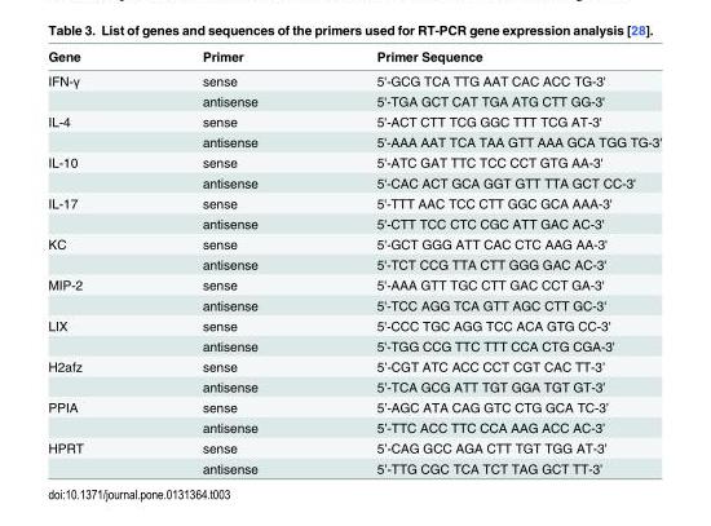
<table><thead><tr><td>Gene</td><td>Primer</td><td>Primer Sequence</td></tr></thead><tbody><tr><td rowspan="2">IFN-γ</td><td>sense</td><td>5&#x27;-GCG TCA TTG AAT CAC ACC TG-3&#x27;</td></tr><tr><td>antisense</td><td>5&#x27;-TGA GCT CAT TGA ATG CTT GG-3&#x27;</td></tr><tr><td rowspan="2">IL-4</td><td>sense</td><td>5&#x27;-ACT CTT TCG GGC TTT TCG AT-3&#x27;</td></tr><tr><td>antisense</td><td>5&#x27;-AAA AAT TCA TAA GTT AAA GCA TGG TG-3&#x27;</td></tr><tr><td rowspan="2">IL-10</td><td>sense</td><td>5&#x27;-ATC GAT TTC TCC CCT GTG AA-3&#x27;</td></tr><tr><td>antisense</td><td>5&#x27;-CAC ACT GCA GGT GTT TTA GCT CC-3&#x27;</td></tr><tr><td rowspan="2">IL-17</td><td>sense</td><td>5&#x27;-TTT AAC TCC CTT GGC GCA AAA-3&#x27;</td></tr><tr><td>antisense</td><td>5&#x27;-CTT TCC CTC CGC ATT GAC AC-3&#x27;</td></tr><tr><td rowspan="2">KC</td><td>sense</td><td>5&#x27;-GCT GGG ATT CAC CTC AAG AA-3&#x27;</td></tr><tr><td>antisense</td><td>5&#x27;-TCT CCG TTA CTT GGG GAC AC-3&#x27;</td></tr><tr><td rowspan="2">MIP-2</td><td>sense</td><td>5&#x27;-AAA GTT TGC CTT GAC CCT GA-3&#x27;</td></tr><tr><td>antisense</td><td>5&#x27;-TCC AGG TCA GTT AGC CTT GC-3&#x27;</td></tr><tr><td rowspan="2">LIX</td><td>sense</td><td>5&#x27;-CCC TGC AGG TCC ACA GTG CC-3&#x27;</td></tr><tr><td>antisense</td><td>5&#x27;-TGG CCG TTC TTT CCA CTG CGA-3&#x27;</td></tr><tr><td rowspan="2">H2afz</td><td>sense</td><td>5’-CGT ATC ACC CCT CGT CAC TT-3’</td></tr><tr><td>antisense</td><td>5’-TCA GCG ATT TGT GGA TGT GT-3’</td></tr><tr><td rowspan="2">PPIA</td><td>sense</td><td>5’-AGC ATA CAG GTC CTG GCA TC-3’</td></tr><tr><td>antisense</td><td>5’-TTC ACC TTC CCA AAG ACC AC-3’</td></tr><tr><td rowspan="2">HPRT</td><td>sense</td><td>5’-CAG GCC AGA CTT TGT TGG AT-3’</td></tr><tr><td>antisense</td><td>5’-TTG CGC TCA TCT TAG GCT TT-3’</td></tr></tbody></table>